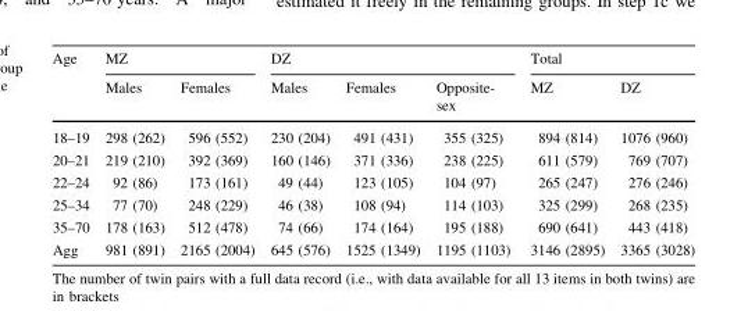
<table><thead><tr><td rowspan="2">Age</td><td colspan="2">MZ</td><td colspan="3">DZ</td><td colspan="2">Total</td></tr><tr><td>Males</td><td>Females</td><td>Males</td><td>Females</td><td>Opposite- sex</td><td>MZ</td><td>DZ</td></tr></thead><tbody><tr><td>18–19</td><td>298 (262)</td><td>596 (552)</td><td>230 (204)</td><td>491 (431)</td><td>355 (325)</td><td>894 (814)</td><td>1076 (960)</td></tr><tr><td>20–21</td><td>219 (210)</td><td>392 (369)</td><td>160 (146)</td><td>371 (336)</td><td>238 (225)</td><td>611 (579)</td><td>769 (707)</td></tr><tr><td>22–24</td><td>92 (86)</td><td>173 (161)</td><td>49 (44)</td><td>123 (105)</td><td>104 (97)</td><td>265 (247)</td><td>276 (246)</td></tr><tr><td>25–34</td><td>77 (70)</td><td>248 (229)</td><td>46 (38)</td><td>108 (94)</td><td>114 (103)</td><td>325 (299)</td><td>268 (235)</td></tr><tr><td>35–70</td><td>178 (163)</td><td>512 (478)</td><td>74 (66)</td><td>174 (164)</td><td>195 (188)</td><td>690 (641)</td><td>443 (418)</td></tr><tr><td>Agg</td><td>981 (891)</td><td>2165 (2004)</td><td>645 (576)</td><td>1525 (1349)</td><td>1195 (1103)</td><td>3146 (2895)</td><td>3365 (3028)</td></tr></tbody></table>